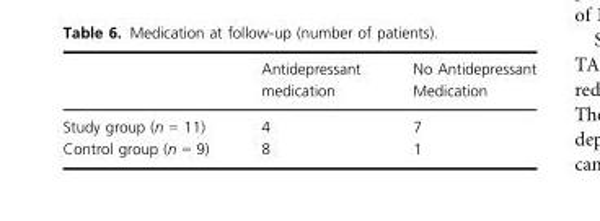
<table><thead><tr><td></td><td>Antidepressant medication</td><td>No Antidepressant Medication</td></tr></thead><tbody><tr><td>Study group (n = 11)</td><td>4</td><td>7</td></tr><tr><td>Control group (n = 9)</td><td>8</td><td>1</td></tr></tbody></table>